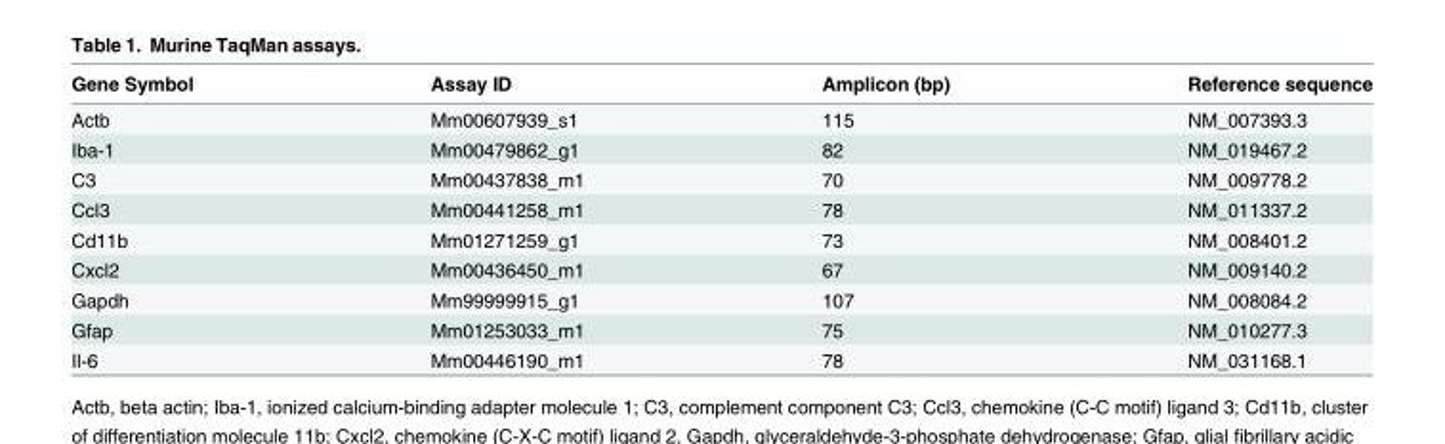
<table><thead><tr><td>Gene Symbol</td><td>Assay ID</td><td>Amplicon (bp)</td><td>Reference sequence</td></tr></thead><tbody><tr><td>Actb</td><td>Mm00607939_s1</td><td>115</td><td>NM_007393.3</td></tr><tr><td>Iba-1</td><td>Mm00479862_g1</td><td>82</td><td>NM_019467.2</td></tr><tr><td>C3</td><td>Mm00437838_m1</td><td>70</td><td>NM_009778.2</td></tr><tr><td>Ccl3</td><td>Mm00441258_m1</td><td>78</td><td>NM_011337.2</td></tr><tr><td>Cd11b</td><td>Mm01271259_g1</td><td>73</td><td>NM_008401.2</td></tr><tr><td>Cxcl2</td><td>Mm00436450_m1</td><td>67</td><td>NM_009140.2</td></tr><tr><td>Gapdh</td><td>Mm99999915_g1</td><td>107</td><td>NM_008084.2</td></tr><tr><td>Gfap</td><td>Mm01253033_m1</td><td>75</td><td>NM_010277.3</td></tr><tr><td>Il-6</td><td>Mm00446190_m1</td><td>78</td><td>NM_031168.1</td></tr></tbody></table>